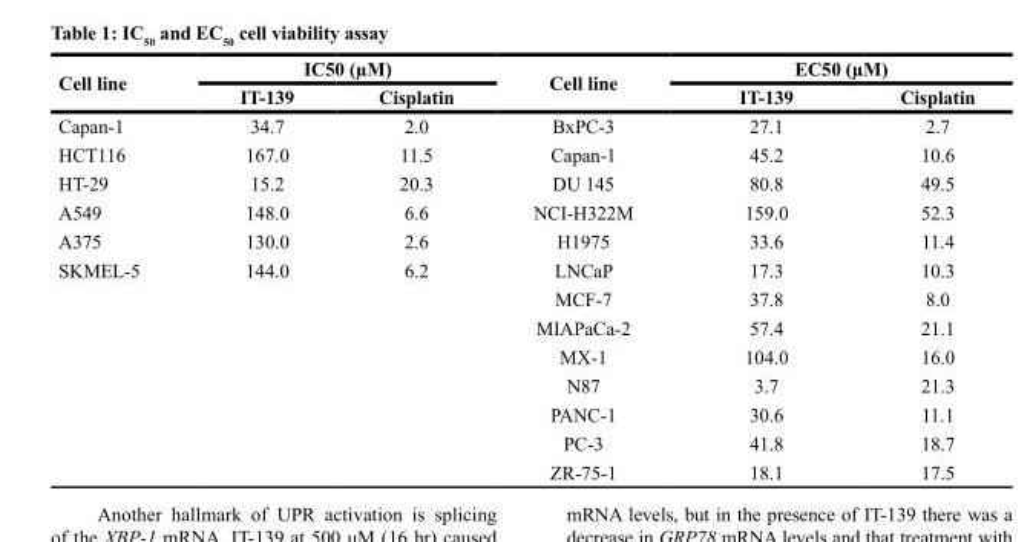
<table><thead><tr><td rowspan="2">Cell line</td><td colspan="2">IC50 (µM)</td><td rowspan="2">Cell line</td><td colspan="2">EC50 (µM)</td></tr><tr><td>IT-139</td><td>Cisplatin</td><td>IT-139</td><td>Cisplatin</td></tr></thead><tbody><tr><td>Capan-1</td><td>34.7</td><td>2.0</td><td>BxPC-3</td><td>27.1</td><td>2.7</td></tr><tr><td>HCT116</td><td>167.0</td><td>11.5</td><td>Capan-1</td><td>45.2</td><td>10.6</td></tr><tr><td>HT-29</td><td>15.2</td><td>20.3</td><td>DU 145</td><td>80.8</td><td>49.5</td></tr><tr><td>A549</td><td>148.0</td><td>6.6</td><td>NCI-H322M</td><td>159.0</td><td>52.3</td></tr><tr><td>A375</td><td>130.0</td><td>2.6</td><td>H1975</td><td>33.6</td><td>11.4</td></tr><tr><td rowspan="8">SKMEL-5</td><td>144.0</td><td>6.2</td><td>LNCaP</td><td>17.3</td><td>10.3</td></tr><tr><td></td><td></td><td>MCF-7</td><td>37.8</td><td>8.0</td></tr><tr><td></td><td></td><td>MIAPaCa-2</td><td>57.4</td><td>21.1</td></tr><tr><td></td><td></td><td>MX-1</td><td>104.0</td><td>16.0</td></tr><tr><td></td><td></td><td>N87</td><td>3.7</td><td>21.3</td></tr><tr><td></td><td></td><td>PANC-1</td><td>30.6</td><td>11.1</td></tr><tr><td></td><td></td><td>PC-3</td><td>41.8</td><td>18.7</td></tr><tr><td></td><td></td><td>ZR-75-1</td><td>18.1</td><td>17.5</td></tr></tbody></table>